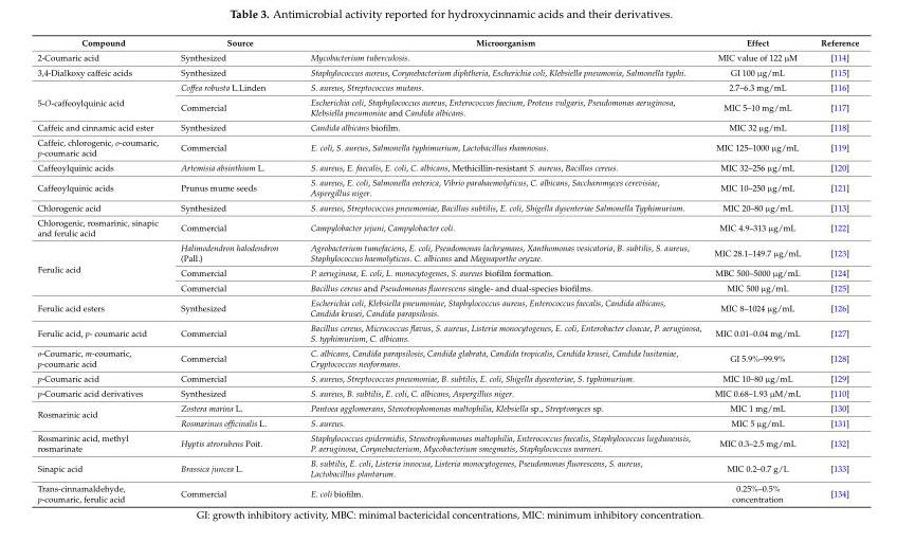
<table><thead><tr><td>Compound</td><td>Source</td><td>Microorganism</td><td>Effect</td><td>Reference</td></tr></thead><tbody><tr><td>2-Coumaric acid</td><td>Synthesized</td><td>Mycobacterium tuberculosis.</td><td>MIC value of 122 µM</td><td>[114]</td></tr><tr><td>3,4-Dialkoxy caffeic acids</td><td>Synthesized</td><td>Staphylococcus aureus, Corynebacterium diphtheria, Escherichia coli, Klebsiella pneumonia, Salmonella typhi.</td><td>GI 100 µg/mL</td><td>[115]</td></tr><tr><td rowspan="2">5-O-caffeoylquinic acid</td><td>Coffea robusta L.Linden</td><td>S. aureus, Streptococcus mutans.</td><td>2.7–6.3 mg/mL</td><td>[116]</td></tr><tr><td>Commercial</td><td>Escherichia coli, Staphylococcus aureus, Enterococcus faecium, Proteus vulgaris, Pseudomonas aeruginosa, Klebsiella pneumoniae and Candida albicans.</td><td>MIC 5–10 mg/mL</td><td>[117]</td></tr><tr><td>Caffeic and cinnamic acid ester</td><td>Synthesized</td><td>Candida albicans biofilm.</td><td>MIC 32 µg/mL</td><td>[118]</td></tr><tr><td>Caffeic, chlorogenic, o-coumaric, p-coumaric acid</td><td>Commercial</td><td>E. coli, S. aureus, Salmonella typhimurium, Lactobacillus rhamnosus.</td><td>MIC 125–1000 µg/mL</td><td>[119]</td></tr><tr><td>Caffeoylquinic acids</td><td>Artemisia absinthium L.</td><td>S. aureus, E. faecalis, E. coli, C. albicans, Methicillin-resistant S. aureus, Bacillus cereus.</td><td>MIC 32–256 µg/mL</td><td>[120]</td></tr><tr><td>Caffeoylquinic acids</td><td>Prunus mume seeds</td><td>S. aureus, E. coli, Salmonella enterica, Vibrio parahaemolyticus, C. albicans, Saccharomyces cerevisiae, Aspergillus niger.</td><td>MIC 10–250 µg/mL</td><td>[121]</td></tr><tr><td>Chlorogenic acid</td><td>Synthesized</td><td>S. aureus, Streptococcus pneumoniae, Bacillus subtilis, E. coli, Shigella dysenteriae Salmonella Typhimurium.</td><td>MIC 20–80 µg/mL</td><td>[113]</td></tr><tr><td>Chlorogenic, rosmarinic, sinapic and ferulic acid</td><td>Commercial</td><td>Campylobacter jejuni, Campylobacter coli.</td><td>MIC 4.9–313 µg/mL</td><td>[122]</td></tr><tr><td rowspan="3">Ferulic acid</td><td>Halimodendron halodendron (Pall.)</td><td>Agrobacterium tumefaciens, E. coli, Pseudomonas lachrymans, Xanthomonas vesicatoria, B. subtilis, S. aureus, Staphylococcus haemolyticus. C. albicans and Magnaporthe oryzae.</td><td>MIC 28.1–149.7 µg/mL</td><td>[123]</td></tr><tr><td>Commercial</td><td>P. aeruginosa, E. coli, L. monocytogenes, S. aureus biofilm formation.</td><td>MBC 500–5000 µg/mL</td><td>[124]</td></tr><tr><td>Commercial</td><td>Bacillus cereus and Pseudomonas fluorescens single- and dual-species biofilms.</td><td>MIC 500 µg/mL</td><td>[125]</td></tr><tr><td>Ferulic acid esters</td><td>Synthesized</td><td>Escherichia coli, Klebsiella pneumoniae, Staphylococcus aureus, Enterococcus faecalis, Candida albicans, Candida krusei, Candida parapsilosis.</td><td>MIC 8–1024 µg/mL</td><td>[126]</td></tr><tr><td>Ferulic acid, p- coumaric acid</td><td>Commercial</td><td>Bacillus cereus, Micrococcus flavus, S. aureus, Listeria monocytogenes, E. coli, Enterobacter cloacae, P. aeruginosa, S. typhimurium, C. albicans.</td><td>MIC 0.01–0.04 mg/mL</td><td>[127]</td></tr><tr><td>o-Coumaric, m-coumaric, p-coumaric acid</td><td>Commercial</td><td>C. albicans, Candida parapsilosis, Candida glabrata, Candida tropicalis, Candida krusei, Candida lusitaniae, Cryptococcus neoformans.</td><td>GI 5.9%–99.9%</td><td>[128]</td></tr><tr><td>p-Coumaric acid</td><td>Commercial</td><td>S. aureus, Streptococcus pneumoniae, B. subtilis, E. coli, Shigella dysenteriae, S. typhimurium.</td><td>MIC 10–80 µg/mL</td><td>[129]</td></tr><tr><td>p-Coumaric acid derivatives</td><td>Synthesized</td><td>S. aureus, B. subtilis, E. coli, C. albicans, Aspergillus niger.</td><td>MIC 0.68–1.93 µM/mL</td><td>[110]</td></tr><tr><td rowspan="2">Rosmarinic acid</td><td>Zostera marina L.</td><td>Pantoea agglomerans, Stenotrophomonas maltophilia, Klebsiella sp., Streptomyces sp.</td><td>MIC 1 mg/mL</td><td>[130]</td></tr><tr><td>Rosmarinus officinalis L.</td><td>S. aureus.</td><td>MIC 5 µg/mL</td><td>[131]</td></tr><tr><td>Rosmarinic acid, methyl rosmarinate</td><td>Hyptis atrorubens Poit.</td><td>Staphylococcus epidermidis, Stenotrophomonas maltophilia, Enterococcus faecalis, Staphylococcus lugdunensis, P. aeruginosa, Corynebacterium, Mycobacterium smegmatis, Staphylococcus warneri.</td><td>MIC 0.3–2.5 mg/mL</td><td>[132]</td></tr><tr><td>Sinapic acid</td><td>Brassica juncea L.</td><td>B. subtilis, E. coli, Listeria innocua, Listeria monocytogenes, Pseudomonas fluorescens, S. aureus, Lactobacillus plantarum.</td><td>MIC 0.2–0.7 g/L</td><td>[133]</td></tr><tr><td>Trans-cinnamaldehyde, p-coumaric, ferulic acid</td><td>Commercial</td><td>E. coli biofilm.</td><td>0.25%–0.5% concentration</td><td>[134]</td></tr></tbody></table>